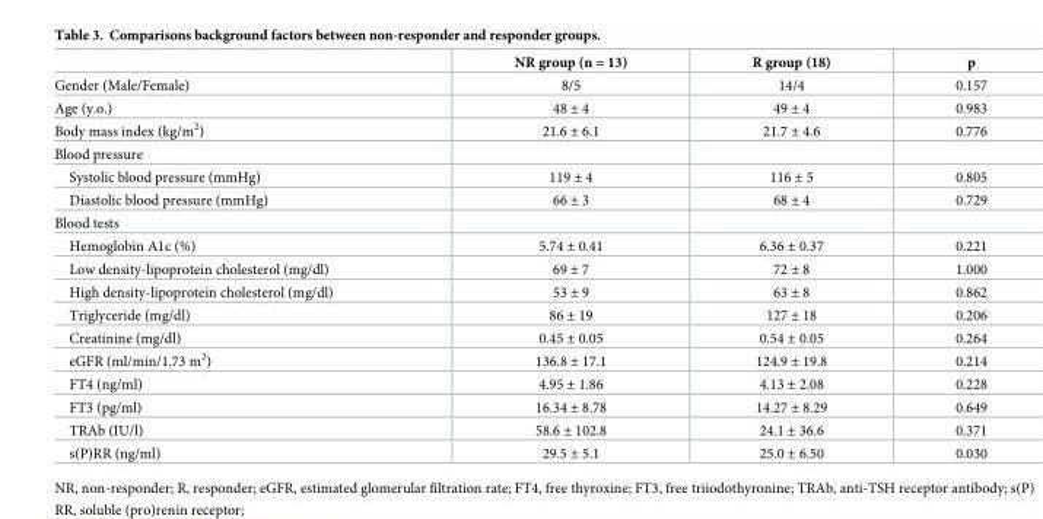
<table><thead><tr><td></td><td>NR group (n = 13)</td><td>R group (18)</td><td>p</td></tr></thead><tbody><tr><td>Gender (Male/Female)</td><td>8/5</td><td>14/4</td><td>0.157</td></tr><tr><td>Age (y.o.)</td><td>48 ± 4</td><td>49 ± 4</td><td>0.983</td></tr><tr><td>Body mass index (kg/m<sup>2</sup>)</td><td>21.6 ± 6.1</td><td>21.7 ± 4.6</td><td>0.776</td></tr><tr><td colspan="4">Blood pressure</td></tr><tr><td>Systolic blood pressure (mmHg)</td><td>119 ± 4</td><td>116 ± 5</td><td>0.805</td></tr><tr><td>Diastolic blood pressure (mmHg)</td><td>66 ± 3</td><td>68 ± 4</td><td>0.729</td></tr><tr><td colspan="4">Blood tests</td></tr><tr><td>Hemoglobin A1c (%)</td><td>5.74 ± 0.41</td><td>6.36 ± 0.37</td><td>0.221</td></tr><tr><td>Low density-lipoprotein cholesterol (mg/dl)</td><td>69 ± 7</td><td>72 ± 8</td><td>1.000</td></tr><tr><td>High density-lipoprotein cholesterol (mg/dl)</td><td>53 ± 9</td><td>63 ± 8</td><td>0.862</td></tr><tr><td>Triglyceride (mg/dl)</td><td>86 ± 19</td><td>127 ± 18</td><td>0.206</td></tr><tr><td>Creatinine (mg/dl)</td><td>0.45 ± 0.05</td><td>0.54 ± 0.05</td><td>0.264</td></tr><tr><td>eGFR (ml/min/1.73 m<sup>2</sup>)</td><td>136.8 ± 17.1</td><td>124.9 ± 19.8</td><td>0.214</td></tr><tr><td>FT4 (ng/ml)</td><td>4.95 ± 1.86</td><td>4.13 ± 2.08</td><td>0.228</td></tr><tr><td>FT3 (pg/ml)</td><td>16.34 ± 8.78</td><td>14.27 ± 8.29</td><td>0.649</td></tr><tr><td>TRAb (IU/l)</td><td>58.6 ± 102.8</td><td>24.1 ± 36.6</td><td>0.371</td></tr><tr><td>s(P)RR (ng/ml)</td><td>29.5 ± 5.1</td><td>25.0 ± 6.50</td><td>0.030</td></tr></tbody></table>